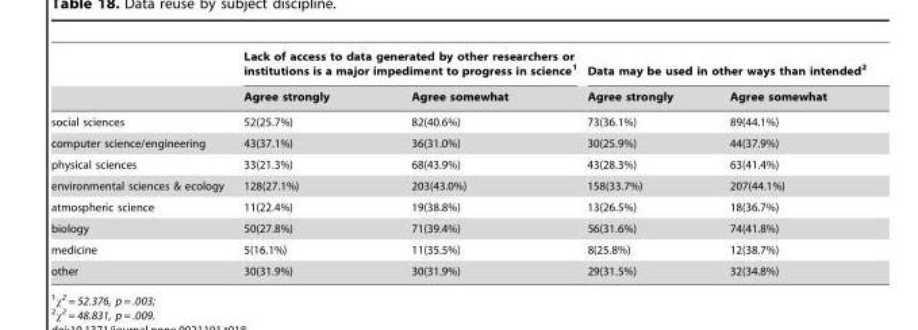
<table><thead><tr><td rowspan="2"></td><td colspan="2">Lack of access to data generated by other researchers or institutions is a major impediment to progress in science<sup>1</sup></td><td colspan="2">Data may be used in other ways than intended<sup>2</sup></td></tr><tr><td>Agree strongly</td><td>Agree somewhat</td><td>Agree strongly</td><td>Agree somewhat</td></tr></thead><tbody><tr><td>social sciences</td><td>52(25.7%)</td><td>82(40.6%)</td><td>73(36.1%)</td><td>89(44.1%)</td></tr><tr><td>computer science/engineering</td><td>43(37.1%)</td><td>36(31.0%)</td><td>30(25.9%)</td><td>44(37.9%)</td></tr><tr><td>physical sciences</td><td>33(21.3%)</td><td>68(43.9%)</td><td>43(28.3%)</td><td>63(41.4%)</td></tr><tr><td>environmental sciences &amp; ecology</td><td>128(27.1%)</td><td>203(43.0%)</td><td>158(33.7%)</td><td>207(44.1%)</td></tr><tr><td>atmospheric science</td><td>11(22.4%)</td><td>19(38.8%)</td><td>13(26.5%)</td><td>18(36.7%)</td></tr><tr><td>biology</td><td>50(27.8%)</td><td>71(39.4%)</td><td>56(31.6%)</td><td>74(41.8%)</td></tr><tr><td>medicine</td><td>5(16.1%)</td><td>11(35.5%)</td><td>8(25.8%)</td><td>12(38.7%)</td></tr><tr><td>other</td><td>30(31.9%)</td><td>30(31.9%)</td><td>29(31.5%)</td><td>32(34.8%)</td></tr></tbody></table>